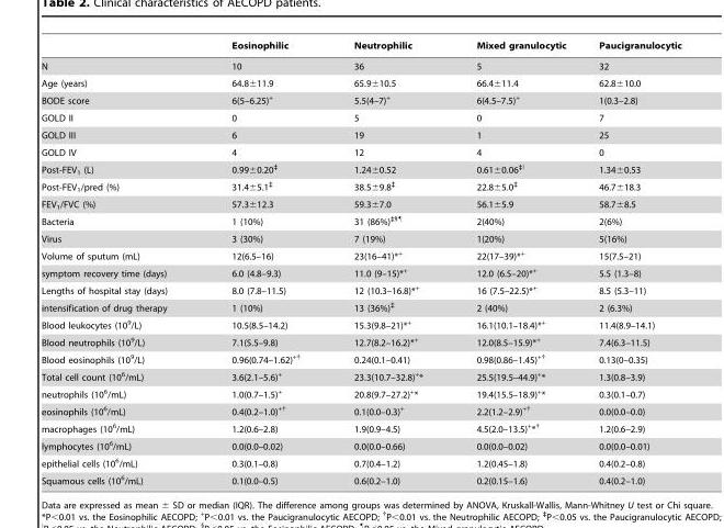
<table><thead><tr><td></td><td>Eosinophilic</td><td>Neutrophilic</td><td>Mixed granulocytic</td><td>Paucigranulocytic</td></tr></thead><tbody><tr><td>N</td><td>10</td><td>36</td><td>5</td><td>32</td></tr><tr><td>Age (years)</td><td>64.8±11.9</td><td>65.9±10.5</td><td>66.4±11.4</td><td>62.8±10.0</td></tr><tr><td>BODE score</td><td>6(5–6.25)<sup>+</sup></td><td>5.5(4–7)<sup>+</sup></td><td>6(4.5–7.5)<sup>+</sup></td><td>1(0.3–2.8)</td></tr><tr><td>GOLD II</td><td>0</td><td>5</td><td>0</td><td>7</td></tr><tr><td>GOLD III</td><td>6</td><td>19</td><td>1</td><td>25</td></tr><tr><td>GOLD IV</td><td>4</td><td>12</td><td>4</td><td>0</td></tr><tr><td>Post-FEV<sub>1</sub> (L)</td><td>0.99±0.20<sup>‡</sup></td><td>1.24±0.52</td><td>0.6160.06`|</td><td>1.34±0.53</td></tr><tr><td>Post-FEV<sub>1</sub>/pred (%)</td><td>31.4±5.1<sup>‡</sup></td><td>38.5±9.8<sup>‡</sup></td><td>22.8±5.0<sup>‡</sup></td><td>46.7±18.3</td></tr><tr><td>FEV<sub>1</sub>/FVC (%)</td><td>57.3±12.3</td><td>59.3±7.0</td><td>56.1±5.9</td><td>58.7±8.5</td></tr><tr><td>Bacteria</td><td>1 (10%)</td><td>31 (86%)<sup>‡§¶</sup></td><td>2(40%)</td><td>2(6%)</td></tr><tr><td>Virus</td><td>3 (30%)</td><td>7 (19%)</td><td>1(20%)</td><td>5(16%)</td></tr><tr><td>Volume of sputum (mL)</td><td>12(6.5–16)</td><td>23(16–41)*<sup>+</sup></td><td>22(17–39)*<sup>+</sup></td><td>15(7.5–21)</td></tr><tr><td>symptom recovery time (days)</td><td>6.0 (4.8–9.3)</td><td>11.0 (9–15)*<sup>+</sup></td><td>12.0 (6.5–20)*<sup>+</sup></td><td>5.5 (1.3–8)</td></tr><tr><td>Lengths of hospital stay (days)</td><td>8.0 (7.8–11.5)</td><td>12 (10.3–16.8)*<sup>+</sup></td><td>16 (7.5–22.5)*<sup>+</sup></td><td>8.5 (5.3–11)</td></tr><tr><td>intensification of drug therapy</td><td>1 (10%)</td><td>13 (36%)<sup>‡</sup></td><td>2 (40%)</td><td>2 (6.3%)</td></tr><tr><td>Blood leukocytes (10<sup>9</sup>/L)</td><td>10.5(8.5–14.2)</td><td>15.3(9.8–21)*<sup>+</sup></td><td>16.1(10.1–18.4)*<sup>+</sup></td><td>11.4(8.9–14.1)</td></tr><tr><td>Blood neutrophils (10<sup>9</sup>/L)</td><td>7.1(5.5–9.8)</td><td>12.7(8.2–16.2)*<sup>+</sup></td><td>12.0(8.5–15.9)*<sup>+</sup></td><td>7.4(6.3–11.5)</td></tr><tr><td>Blood eosinophils (10<sup>9</sup>/L)</td><td>0.96(0.74–1.62)<sup>+†</sup></td><td>0.24(0.1–0.41)</td><td>0.98(0.86–1.45)<sup>+†</sup></td><td>0.13(0–0.35)</td></tr><tr><td>Total cell count (10<sup>6</sup>/mL)</td><td>3.6(2.1–5.6)<sup>+</sup></td><td>23.3(10.7–32.8)<sup>+</sup>*</td><td>25.5(19.5–44.9)<sup>+</sup>*</td><td>1.3(0.8–3.9)</td></tr><tr><td>neutrophils (10<sup>6</sup>/mL)</td><td>1.0(0.7–1.5)<sup>+</sup></td><td>20.8(9.7–27.2)<sup>+</sup>*</td><td>19.4(15.5–18.9)<sup>+</sup>*</td><td>0.3(0.1–0.7)</td></tr><tr><td>eosinophils (10<sup>6</sup>/mL)</td><td>0.4(0.2–1.0)<sup>+†</sup></td><td>0.1(0.0–0.3)<sup>+</sup></td><td>2.2(1.2–2.9)<sup>+†</sup></td><td>0.0(0.0–0.0)</td></tr><tr><td>macrophages (10<sup>6</sup>/mL)</td><td>1.2(0.6–2.8)</td><td>1.9(0.9–4.5)</td><td>4.5(2.0–13.5)<sup>+</sup>*<sup>†</sup></td><td>1.2(0.6–2.9)</td></tr><tr><td>lymphocytes (10<sup>6</sup>/mL)</td><td>0.0(0.0–0.02)</td><td>0.0(0.0–0.66)</td><td>0.0(0.0–0.02)</td><td>0.0(0.0–0.01)</td></tr><tr><td>epithelial cells (10<sup>6</sup>/mL)</td><td>0.3(0.1–0.8)</td><td>0.7(0.4–1.2)</td><td>1.2(0.45–1.8)</td><td>0.4(0.2–0.8)</td></tr><tr><td>Squamous cells (10<sup>6</sup>/mL)</td><td>0.1(0.0–0.5)</td><td>0.6(0.2–1.0)</td><td>0.2(0.15–1.6)</td><td>0.4(0.2–1.0)</td></tr></tbody></table>